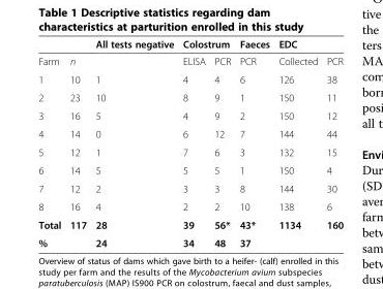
<table><thead><tr><td rowspan="2">Farm</td><td rowspan="2">n</td><td rowspan="2">All tests negative</td><td colspan="2">Colostrum</td><td rowspan="2">Faeces PCR</td><td colspan="2">EDC</td></tr><tr><td>ELISA</td><td>PCR</td><td>Collected</td><td>PCR</td></tr></thead><tbody><tr><td>1</td><td>10</td><td>1</td><td>4</td><td>4</td><td>6</td><td>126</td><td>38</td></tr><tr><td>2</td><td>23</td><td>10</td><td>8</td><td>9</td><td>1</td><td>150</td><td>11</td></tr><tr><td>3</td><td>16</td><td>5</td><td>4</td><td>9</td><td>2</td><td>150</td><td>12</td></tr><tr><td>4</td><td>14</td><td>0</td><td>6</td><td>12</td><td>7</td><td>144</td><td>44</td></tr><tr><td>5</td><td>12</td><td>1</td><td>7</td><td>6</td><td>3</td><td>132</td><td>15</td></tr><tr><td>6</td><td>14</td><td>5</td><td>5</td><td>5</td><td>1</td><td>150</td><td>4</td></tr><tr><td>7</td><td>12</td><td>2</td><td>3</td><td>3</td><td>8</td><td>144</td><td>30</td></tr><tr><td>8</td><td>16</td><td>4</td><td>2</td><td>2</td><td>10</td><td>138</td><td>6</td></tr><tr><td>Total</td><td>117</td><td>28</td><td>39</td><td>56*</td><td>43*</td><td>1134</td><td>160</td></tr><tr><td>%</td><td></td><td>24</td><td>34</td><td>48</td><td>37</td><td></td><td></td></tr></tbody></table>